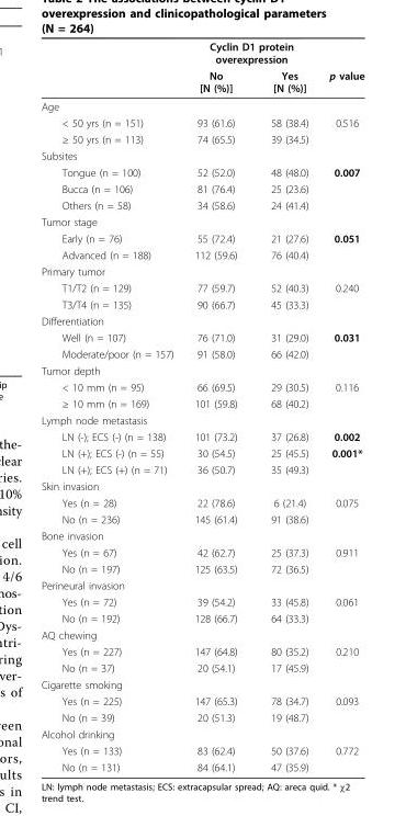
<table><thead><tr><td rowspan="2"></td><td colspan="2">Cyclin D1 protein overexpression</td><td rowspan="2">p value</td></tr><tr><td>No [N (%)]</td><td>Yes [N (%)]</td></tr></thead><tbody><tr><td colspan="4">Age</td></tr><tr><td>&lt; 50 yrs (n = 151)</td><td>93 (61.6)</td><td>58 (38.4)</td><td>0.516</td></tr><tr><td>≥ 50 yrs (n = 113)</td><td>74 (65.5)</td><td>39 (34.5)</td><td></td></tr><tr><td colspan="4">Subsites</td></tr><tr><td>Tongue (n = 100)</td><td>52 (52.0)</td><td>48 (48.0)</td><td>0.007</td></tr><tr><td>Bucca (n = 106)</td><td>81 (76.4)</td><td>25 (23.6)</td><td></td></tr><tr><td>Others (n = 58)</td><td>34 (58.6)</td><td>24 (41.4)</td><td></td></tr><tr><td colspan="4">Tumor stage</td></tr><tr><td>Early (n = 76)</td><td>55 (72.4)</td><td>21 (27.6)</td><td>0.051</td></tr><tr><td>Advanced (n = 188)</td><td>112 (59.6)</td><td>76 (40.4)</td><td></td></tr><tr><td colspan="4">Primary tumor</td></tr><tr><td>T1/T2 (n = 129)</td><td>77 (59.7)</td><td>52 (40.3)</td><td>0.240</td></tr><tr><td>T3/T4 (n = 135)</td><td>90 (66.7)</td><td>45 (33.3)</td><td></td></tr><tr><td colspan="4">Differentiation</td></tr><tr><td>Well (n = 107)</td><td>76 (71.0)</td><td>31 (29.0)</td><td>0.031</td></tr><tr><td>Moderate/poor (n = 157)</td><td>91 (58.0)</td><td>66 (42.0)</td><td></td></tr><tr><td colspan="4">Tumor depth</td></tr><tr><td>&lt; 10 mm (n = 95)</td><td>66 (69.5)</td><td>29 (30.5)</td><td>0.116</td></tr><tr><td>≥ 10 mm (n = 169)</td><td>101 (59.8)</td><td>68 (40.2)</td><td></td></tr><tr><td colspan="4">Lymph node metastasis</td></tr><tr><td>LN (-); ECS (-) (n = 138)</td><td>101 (73.2)</td><td>37 (26.8)</td><td>0.002</td></tr><tr><td>LN (+); ECS (-) (n = 55)</td><td>30 (54.5)</td><td>25 (45.5)</td><td>0.001*</td></tr><tr><td>LN (+); ECS (+) (n = 71)</td><td>36 (50.7)</td><td>35 (49.3)</td><td></td></tr><tr><td colspan="4">Skin invasion</td></tr><tr><td>Yes (n = 28)</td><td>22 (78.6)</td><td>6 (21.4)</td><td>0.075</td></tr><tr><td>No (n = 236)</td><td>145 (61.4)</td><td>91 (38.6)</td><td></td></tr><tr><td colspan="4">Bone invasion</td></tr><tr><td>Yes (n = 67)</td><td>42 (62.7)</td><td>25 (37.3)</td><td>0.911</td></tr><tr><td>No (n = 197)</td><td>125 (63.5)</td><td>72 (36.5)</td><td></td></tr><tr><td colspan="4">Perineural invasion</td></tr><tr><td>Yes (n = 72)</td><td>39 (54.2)</td><td>33 (45.8)</td><td>0.061</td></tr><tr><td>No (n = 192)</td><td>128 (66.7)</td><td>64 (33.3)</td><td></td></tr><tr><td colspan="4">AQ chewing</td></tr><tr><td>Yes (n = 227)</td><td>147 (64.8)</td><td>80 (35.2)</td><td>0.210</td></tr><tr><td>No (n = 37)</td><td>20 (54.1)</td><td>17 (45.9)</td><td></td></tr><tr><td colspan="4">Cigarette smoking</td></tr><tr><td>Yes (n = 225)</td><td>147 (65.3)</td><td>78 (34.7)</td><td>0.093</td></tr><tr><td>No (n = 39)</td><td>20 (51.3)</td><td>19 (48.7)</td><td></td></tr><tr><td colspan="4">Alcohol drinking</td></tr><tr><td>Yes (n = 133)</td><td>83 (62.4)</td><td>50 (37.6)</td><td>0.772</td></tr><tr><td>No (n = 131)</td><td>84 (64.1)</td><td>47 (35.9)</td><td></td></tr></tbody></table>